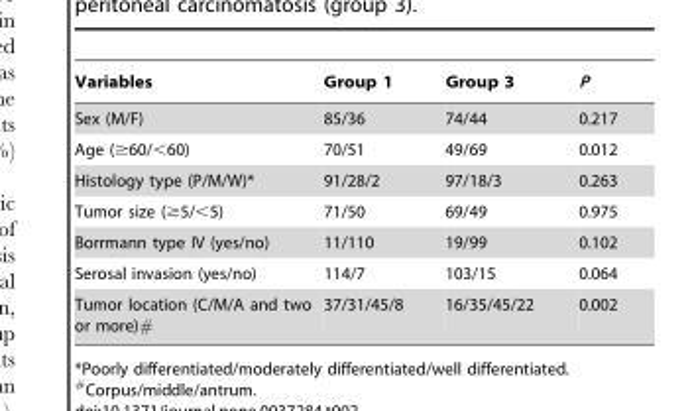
<table><thead><tr><td>Variables</td><td>Group 1</td><td>Group 3</td><td>P</td></tr></thead><tbody><tr><td>Sex (M/F)</td><td>85/36</td><td>74/44</td><td>0.217</td></tr><tr><td>Age (≥60/&lt;60)</td><td>70/51</td><td>49/69</td><td>0.012</td></tr><tr><td>Histology type (P/M/W)*</td><td>91/28/2</td><td>97/18/3</td><td>0.263</td></tr><tr><td>Tumor size (≥5/&lt;5)</td><td>71/50</td><td>69/49</td><td>0.975</td></tr><tr><td>Borrmann type IV (yes/no)</td><td>11/110</td><td>19/99</td><td>0.102</td></tr><tr><td>Serosal invasion (yes/no)</td><td>114/7</td><td>103/15</td><td>0.064</td></tr><tr><td>Tumor location (C/M/A and two or more)#</td><td>37/31/45/8</td><td>16/35/45/22</td><td>0.002</td></tr></tbody></table>